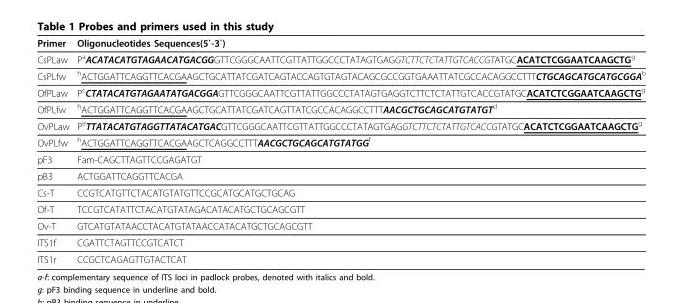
<table><thead><tr><td>Primer</td><td>Oligonucleotides Sequences(5`-3`)</td></tr></thead><tbody><tr><td>CsPLaw</td><td>P<sup>a</sup>ACATACATGTAGAACATGACGGGTTCGGGCAATTCGTTATTGGCCCTATAGTGAGGTCTTCTCTATTGTCACCGTATGCACATCTCGGAATCAAGCTG<sup>g</sup></td></tr><tr><td>CsPLfw</td><td><sup>h</sup>ACTGGATTCAGGTTCACGAAGCTGCATTATCGATCAGTACCAGTGTAGTACAGCGCCGGTGAAATTATCGCCACAGGCCTTTCTGCAGCATGCATGCGGA<sup>b</sup></td></tr><tr><td>OfPLaw</td><td>P<sup>c</sup>CTATACATGTAGAATATGACGGAGTTCGGGCAATTCGTTATTGGCCCTATAGTGAGGTCTTCTCTATTGTCACCGTATGCACATCTCGGAATCAAGCTG<sup>g</sup></td></tr><tr><td>OfPLfw</td><td><sup>h</sup>ACTGGATTCAGGTTCACGAAGCTGCATTATCGATCAGTTATCGCCACAGGCCTTTAACGCTGCAGCATGTATGT<sup>d</sup></td></tr><tr><td>OvPLaw</td><td>P<sup>e</sup>TTATACATGTAGGTTATACATGACGTTCGGGCAATTCGTTATTGGCCCTATAGTGAGGTCTTCTCTATTGTCACCGTATGCACATCTCGGAATCAAGCTG<sup>g</sup></td></tr><tr><td>OvPLfw</td><td><sup>h</sup>ACTGGATTCAGGTTCACGAAGCTCAGGCCTTTAACGCTGCAGCATGTATGG<sup>f</sup></td></tr><tr><td>pF3</td><td>Fam-CAGCTTAGTTCCGAGATGT</td></tr><tr><td>pB3</td><td>ACTGGATTCAGGTTCACGA</td></tr><tr><td>Cs-T</td><td>CCGTCATGTTCTACATGTATGTTCCGCATGCATGCTGCAG</td></tr><tr><td>Of-T</td><td>TCCGTCATATTCTACATGTATAGACATACATGCTGCAGCGTT</td></tr><tr><td>Ov-T</td><td>GTCATGTATAACCTACATGTATAACCATACATGCTGCAGCGTT</td></tr><tr><td>ITS1f</td><td>CGATTCTAGTTCCGTCATCT</td></tr><tr><td>ITS1r</td><td>CCGCTCAGAGTTGTACTCAT</td></tr></tbody></table>